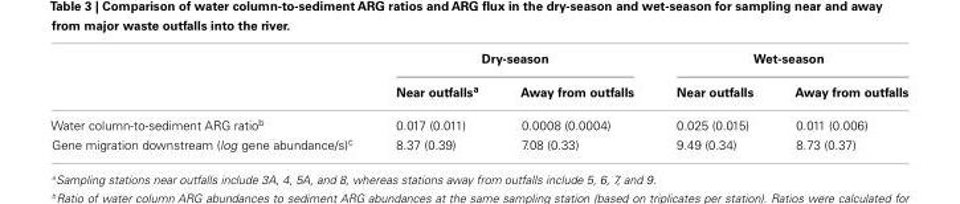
<table><thead><tr><td rowspan="2"></td><td colspan="2">Dry-season</td><td colspan="2">Wet-season</td></tr><tr><td>Near outfalls<sup>a</sup></td><td>Away from outfalls</td><td>Near outfalls</td><td>Away from outfalls</td></tr></thead><tbody><tr><td>Water column-to-sediment ARG ratio<sup>b</sup></td><td>0.017 (0.011)</td><td>0.0008 (0.0004)</td><td>0.025 (0.015)</td><td>0.011 (0.006)</td></tr><tr><td>Gene migration downstream (log gene abundance/s)<sup>c</sup></td><td>8.37 (0.39)</td><td>7.08 (0.33)</td><td>9.49 (0.34)</td><td>8.73 (0.37)</td></tr></tbody></table>